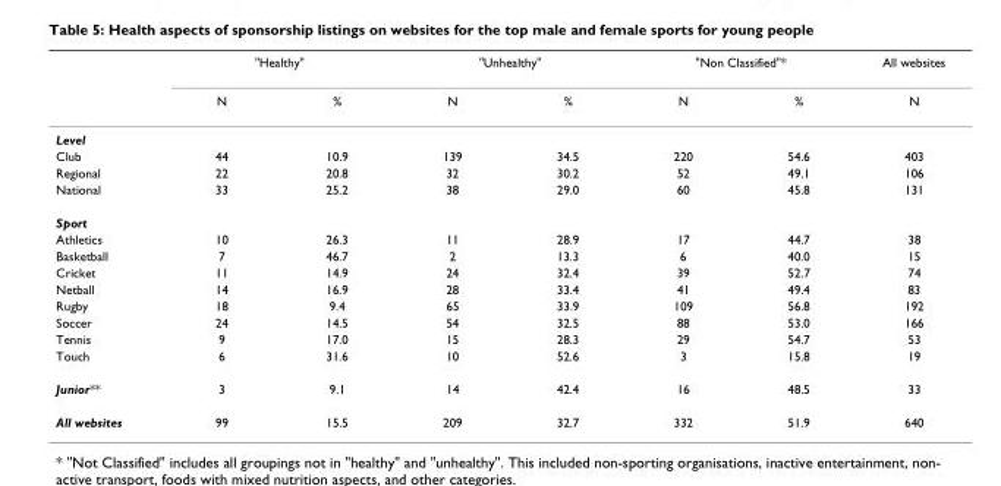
<table><thead><tr><td rowspan="2"></td><td colspan="2">&quot;Healthy&quot;</td><td colspan="2">&quot;Unhealthy&quot;</td><td colspan="2">&quot;Non Classified&quot;*</td><td rowspan="2">All websites N</td></tr><tr><td>N</td><td>%</td><td>N</td><td>%</td><td>N</td><td>%</td></tr></thead><tbody><tr><td colspan="8">Level</td></tr><tr><td>Club</td><td>44</td><td>10.9</td><td>139</td><td>34.5</td><td>220</td><td>54.6</td><td>403</td></tr><tr><td>Regional</td><td>22</td><td>20.8</td><td>32</td><td>30.2</td><td>52</td><td>49.1</td><td>106</td></tr><tr><td>National</td><td>33</td><td>25.2</td><td>38</td><td>29.0</td><td>60</td><td>45.8</td><td>131</td></tr><tr><td colspan="8">Sport</td></tr><tr><td>Athletics</td><td>10</td><td>26.3</td><td>11</td><td>28.9</td><td>17</td><td>44.7</td><td>38</td></tr><tr><td>Basketball</td><td>7</td><td>46.7</td><td>2</td><td>13.3</td><td>6</td><td>40.0</td><td>15</td></tr><tr><td>Cricket</td><td>11</td><td>14.9</td><td>24</td><td>32.4</td><td>39</td><td>52.7</td><td>74</td></tr><tr><td>Netball</td><td>14</td><td>16.9</td><td>28</td><td>33.4</td><td>41</td><td>49.4</td><td>83</td></tr><tr><td>Rugby</td><td>18</td><td>9.4</td><td>65</td><td>33.9</td><td>109</td><td>56.8</td><td>192</td></tr><tr><td>Soccer</td><td>24</td><td>14.5</td><td>54</td><td>32.5</td><td>88</td><td>53.0</td><td>166</td></tr><tr><td>Tennis</td><td>9</td><td>17.0</td><td>15</td><td>28.3</td><td>29</td><td>54.7</td><td>53</td></tr><tr><td>Touch</td><td>6</td><td>31.6</td><td>10</td><td>52.6</td><td>3</td><td>15.8</td><td>19</td></tr><tr><td>Junior**</td><td>3</td><td>9.1</td><td>14</td><td>42.4</td><td>16</td><td>48.5</td><td>33</td></tr><tr><td>All websites</td><td>99</td><td>15.5</td><td>209</td><td>32.7</td><td>332</td><td>51.9</td><td>640</td></tr></tbody></table>